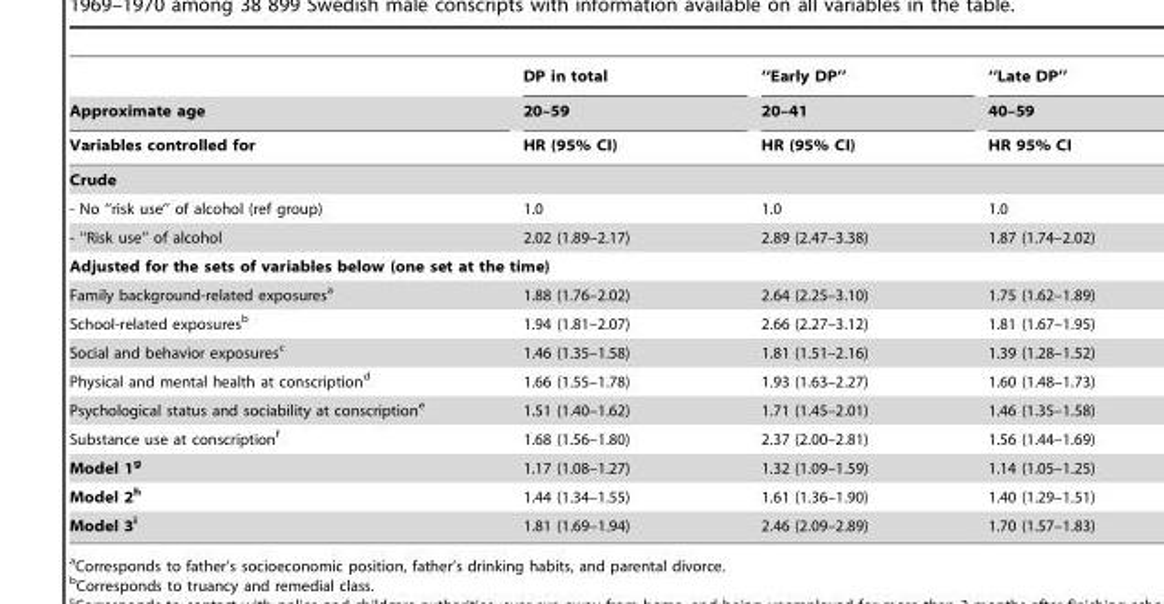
<table><thead><tr><td rowspan="3">Approximate age Variables controlled for</td><td rowspan="3">DP in total 20–59 HR (95% CI)</td><td rowspan="3">‘‘Early DP’’ 20–41 HR (95% CI)</td><td rowspan="3">‘‘Late DP’’ 40–59 HR 95% CI</td></tr><tr></tr><tr></tr></thead><tbody><tr><td colspan="4">Crude</td></tr><tr><td>- No ‘‘risk use’’ of alcohol (ref group)</td><td>1.0</td><td>1.0</td><td>1.0</td></tr><tr><td>- ‘‘Risk use’’ of alcohol</td><td>2.02 (1.89–2.17)</td><td>2.89 (2.47–3.38)</td><td>1.87 (1.74–2.02)</td></tr><tr><td colspan="4">Adjusted for the sets of variables below (one set at the time)</td></tr><tr><td>Family background-related exposures<sup>a</sup></td><td>1.88 (1.76–2.02)</td><td>2.64 (2.25–3.10)</td><td>1.75 (1.62–1.89)</td></tr><tr><td>School-related exposures<sup>b</sup></td><td>1.94 (1.81–2.07)</td><td>2.66 (2.27–3.12)</td><td>1.81 (1.67–1.95)</td></tr><tr><td>Social and behavior exposures<sup>c</sup></td><td>1.46 (1.35–1.58)</td><td>1.81 (1.51–2.16)</td><td>1.39 (1.28–1.52)</td></tr><tr><td>Physical and mental health at conscription<sup>d</sup></td><td>1.66 (1.55–1.78)</td><td>1.93 (1.63–2.27)</td><td>1.60 (1.48–1.73)</td></tr><tr><td>Psychological status and sociability at conscription<sup>e</sup></td><td>1.51 (1.40–1.62)</td><td>1.71 (1.45–2.01)</td><td>1.46 (1.35–1.58)</td></tr><tr><td>Substance use at conscription<sup>f</sup></td><td>1.68 (1.56–1.80)</td><td>2.37 (2.00–2.81)</td><td>1.56 (1.44–1.69)</td></tr><tr><td>Model 1g</td><td>1.17 (1.08–1.27)</td><td>1.32 (1.09–1.59)</td><td>1.14 (1.05–1.25)</td></tr><tr><td>Model 2h</td><td>1.44 (1.34–1.55)</td><td>1.61 (1.36–1.90)</td><td>1.40 (1.29–1.51)</td></tr><tr><td>Model 3i</td><td>1.81 (1.69–1.94)</td><td>2.46 (2.09–2.89)</td><td>1.70 (1.57–1.83)</td></tr></tbody></table>